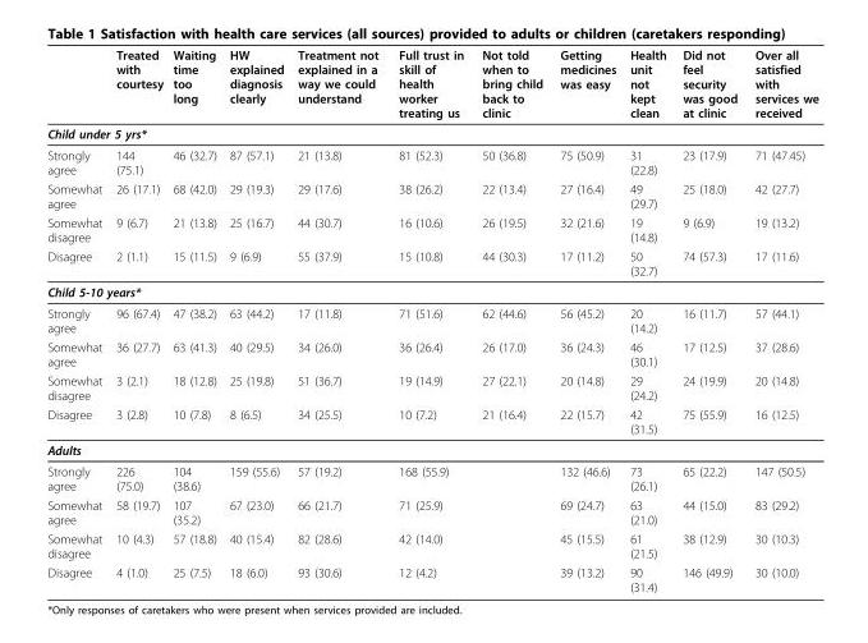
<table><thead><tr><td></td><td>Treated with courtesy</td><td>Waiting time too long</td><td>HW explained diagnosis clearly</td><td>Treatment not explained in a way we could understand</td><td>Full trust in skill of health worker treating us</td><td>Not told when to bring child back to clinic</td><td>Getting medicines was easy</td><td>Health unit not kept clean</td><td>Did not feel security was good at clinic</td><td>Over all satisfied with services we received</td></tr></thead><tbody><tr><td colspan="11">Child under 5 yrs*</td></tr><tr><td>Strongly agree</td><td>144 (75.1)</td><td>46 (32.7)</td><td>87 (57.1)</td><td>21 (13.8)</td><td>81 (52.3)</td><td>50 (36.8)</td><td>75 (50.9)</td><td>31 (22.8)</td><td>23 (17.9)</td><td>71 (47.45)</td></tr><tr><td>Somewhat agree</td><td>26 (17.1)</td><td>68 (42.0)</td><td>29 (19.3)</td><td>29 (17.6)</td><td>38 (26.2)</td><td>22 (13.4)</td><td>27 (16.4)</td><td>49 (29.7)</td><td>25 (18.0)</td><td>42 (27.7)</td></tr><tr><td>Somewhat disagree</td><td>9 (6.7)</td><td>21 (13.8)</td><td>25 (16.7)</td><td>44 (30.7)</td><td>16 (10.6)</td><td>26 (19.5)</td><td>32 (21.6)</td><td>19 (14.8)</td><td>9 (6.9)</td><td>19 (13.2)</td></tr><tr><td>Disagree</td><td>2 (1.1)</td><td>15 (11.5)</td><td>9 (6.9)</td><td>55 (37.9)</td><td>15 (10.8)</td><td>44 (30.3)</td><td>17 (11.2)</td><td>50 (32.7)</td><td>74 (57.3)</td><td>17 (11.6)</td></tr><tr><td colspan="11">Child 5-10 years*</td></tr><tr><td>Strongly agree</td><td>96 (67.4)</td><td>47 (38.2)</td><td>63 (44.2)</td><td>17 (11.8)</td><td>71 (51.6)</td><td>62 (44.6)</td><td>56 (45.2)</td><td>20 (14.2)</td><td>16 (11.7)</td><td>57 (44.1)</td></tr><tr><td>Somewhat agree</td><td>36 (27.7)</td><td>63 (41.3)</td><td>40 (29.5)</td><td>34 (26.0)</td><td>36 (26.4)</td><td>26 (17.0)</td><td>36 (24.3)</td><td>46 (30.1)</td><td>17 (12.5)</td><td>37 (28.6)</td></tr><tr><td>Somewhat disagree</td><td>3 (2.1)</td><td>18 (12.8)</td><td>25 (19.8)</td><td>51 (36.7)</td><td>19 (14.9)</td><td>27 (22.1)</td><td>20 (14.8)</td><td>29 (24.2)</td><td>24 (19.9)</td><td>20 (14.8)</td></tr><tr><td>Disagree</td><td>3 (2.8)</td><td>10 (7.8)</td><td>8 (6.5)</td><td>34 (25.5)</td><td>10 (7.2)</td><td>21 (16.4)</td><td>22 (15.7)</td><td>42 (31.5)</td><td>75 (55.9)</td><td>16 (12.5)</td></tr><tr><td colspan="11">Adults</td></tr><tr><td>Strongly agree</td><td>226 (75.0)</td><td>104 (38.6)</td><td>159 (55.6)</td><td>57 (19.2)</td><td>168 (55.9)</td><td></td><td>132 (46.6)</td><td>73 (26.1)</td><td>65 (22.2)</td><td>147 (50.5)</td></tr><tr><td>Somewhat agree</td><td>58 (19.7)</td><td>107 (35.2)</td><td>67 (23.0)</td><td>66 (21.7)</td><td>71 (25.9)</td><td></td><td>69 (24.7)</td><td>63 (21.0)</td><td>44 (15.0)</td><td>83 (29.2)</td></tr><tr><td>Somewhat disagree</td><td>10 (4.3)</td><td>57 (18.8)</td><td>40 (15.4)</td><td>82 (28.6)</td><td>42 (14.0)</td><td></td><td>45 (15.5)</td><td>61 (21.5)</td><td>38 (12.9)</td><td>30 (10.3)</td></tr><tr><td>Disagree</td><td>4 (1.0)</td><td>25 (7.5)</td><td>18 (6.0)</td><td>93 (30.6)</td><td>12 (4.2)</td><td></td><td>39 (13.2)</td><td>90 (31.4)</td><td>146 (49.9)</td><td>30 (10.0)</td></tr></tbody></table>